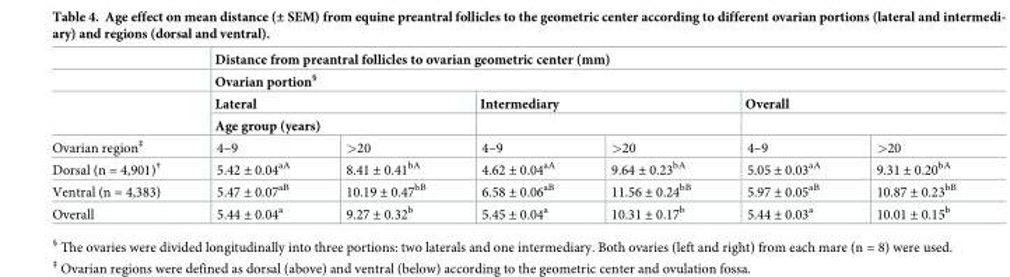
<table><thead><tr><td rowspan="5">Ovarian region<sup>‡</sup></td><td rowspan="2" colspan="6">Distance from preantral follicles to ovarian geometric center (mm) Ovarian portion<sup>§</sup></td></tr><tr></tr><tr><td rowspan="2" colspan="2">Lateral Age group (years)</td><td colspan="2">Intermediary</td><td colspan="2">Overall</td></tr><tr><td rowspan="2">4–9</td><td rowspan="2">&gt;20</td><td rowspan="2">4–9</td><td rowspan="2">&gt;20</td></tr><tr><td>4–9</td><td>&gt;20</td></tr></thead><tbody><tr><td>Dorsal (n = 4,901)<sup>†</sup></td><td>5.42 ± 0.04<sup>aA</sup></td><td>8.41 ± 0.41<sup>bA</sup></td><td>4.62 ± 0.04<sup>aA</sup></td><td>9.64 ± 0.23<sup>bA</sup></td><td>5.05 ± 0.03<sup>aA</sup></td><td>9.31 ± 0.20<sup>bA</sup></td></tr><tr><td>Ventral (n = 4,383)</td><td>5.47 ± 0.07<sup>aB</sup></td><td>10.19 ± 0.47<sup>bB</sup></td><td>6.58 ± 0.06<sup>aB</sup></td><td>11.56 ± 0.24<sup>bB</sup></td><td>5.97 ± 0.05<sup>aB</sup></td><td>10.87 ± 0.23<sup>bB</sup></td></tr><tr><td>Overall</td><td>5.44 ± 0.04<sup>a</sup></td><td>9.27 ± 0.32<sup>b</sup></td><td>5.45 ± 0.04<sup>a</sup></td><td>10.31 ± 0.17<sup>b</sup></td><td>5.44 ± 0.03<sup>a</sup></td><td>10.01 ± 0.15<sup>b</sup></td></tr></tbody></table>